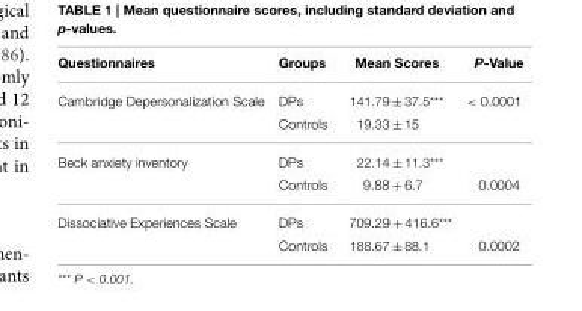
<table><thead><tr><td>Questionnaires</td><td>Groups</td><td>Mean Scores</td><td>P-Value</td></tr></thead><tbody><tr><td rowspan="2">Cambridge Depersonalization Scale</td><td>DPs</td><td>141.79 ± 37.5***</td><td>&lt; 0.0001</td></tr><tr><td>Controls</td><td>19.33 ± 15</td><td></td></tr><tr><td rowspan="2">Beck anxiety inventory</td><td>DPs</td><td>22.14 ± 11.3***</td><td></td></tr><tr><td>Controls</td><td>9.88 + 6.7</td><td>0.0004</td></tr><tr><td rowspan="2">Dissociative Experiences Scale</td><td>DPs</td><td>709.29 + 416.6***</td><td></td></tr><tr><td>Controls</td><td>188.67 ± 88.1</td><td>0.0002</td></tr></tbody></table>